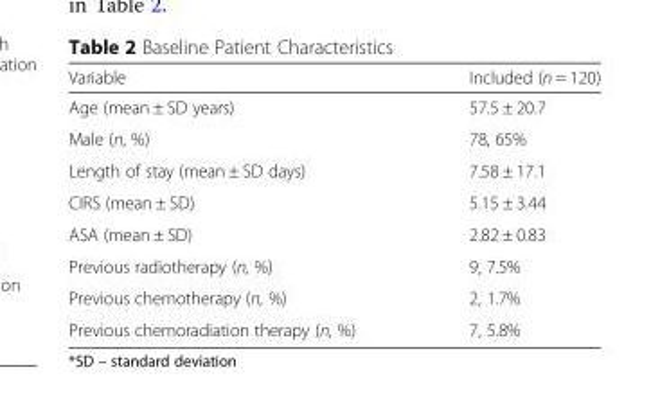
<table><thead><tr><td>Variable</td><td>Included (n = 120)</td></tr></thead><tbody><tr><td>Age (mean ± SD years)</td><td>57.5 ± 20.7</td></tr><tr><td>Male (n, %)</td><td>78, 65%</td></tr><tr><td>Length of stay (mean ± SD days)</td><td>7.58 ± 17.1</td></tr><tr><td>CIRS (mean ± SD)</td><td>5.15 ± 3.44</td></tr><tr><td>ASA (mean ± SD)</td><td>2.82 ± 0.83</td></tr><tr><td>Previous radiotherapy (n, %)</td><td>9, 7.5%</td></tr><tr><td>Previous chemotherapy (n, %)</td><td>2, 1.7%</td></tr><tr><td>Previous chemoradiation therapy (n, %)</td><td>7, 5.8%</td></tr></tbody></table>